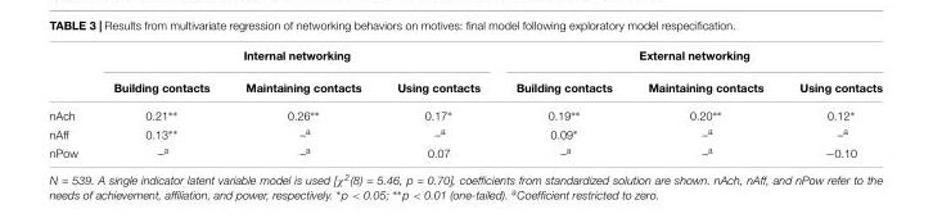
<table><thead><tr><td rowspan="2"></td><td colspan="3">Internal networking</td><td colspan="3">External networking</td></tr><tr><td>Building contacts</td><td>Maintaining contacts</td><td>Using contacts</td><td>Building contacts</td><td>Maintaining contacts</td><td>Using contacts</td></tr></thead><tbody><tr><td>nAch</td><td>0.21∗∗</td><td>0.26∗∗</td><td>0.17∗</td><td>0.19∗∗</td><td>0.20∗∗</td><td>0.12∗</td></tr><tr><td>nAff</td><td>0.13∗∗</td><td>–<sup>a</sup></td><td>–<sup>a</sup></td><td>0.09∗</td><td>–<sup>a</sup></td><td>–<sup>a</sup></td></tr><tr><td>nPow</td><td>–<sup>a</sup></td><td>–<sup>a</sup></td><td>0.07</td><td>–<sup>a</sup></td><td>–<sup>a</sup></td><td>−0.10</td></tr></tbody></table>